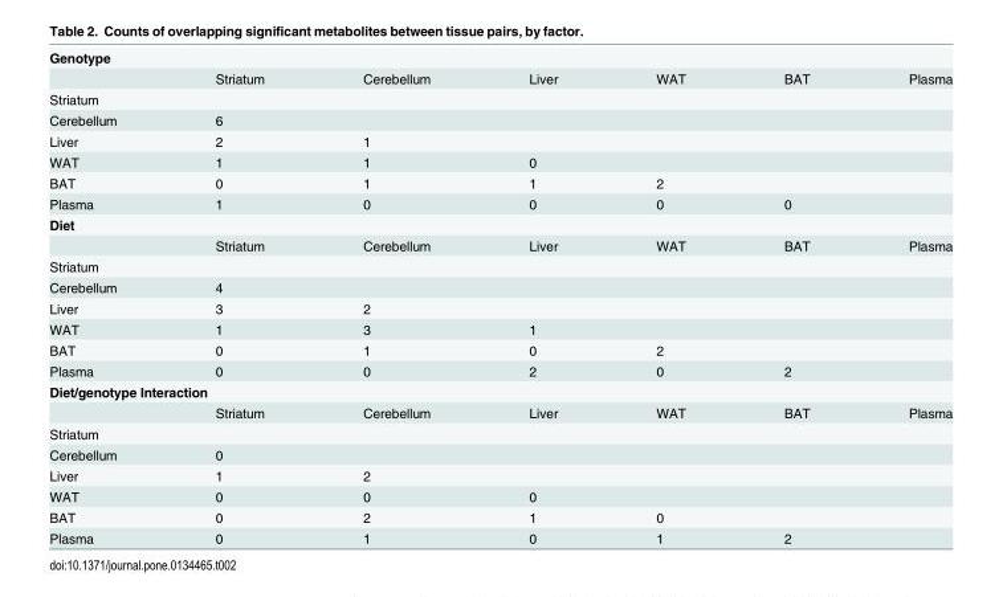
<table><tbody><tr><td colspan="7">Genotype</td></tr><tr><td></td><td>Striatum</td><td>Cerebellum</td><td>Liver</td><td>WAT</td><td>BAT</td><td>Plasma</td></tr><tr><td colspan="7">Striatum</td></tr><tr><td>Cerebellum</td><td>6</td><td></td><td></td><td></td><td></td><td></td></tr><tr><td>Liver</td><td>2</td><td>1</td><td></td><td></td><td></td><td></td></tr><tr><td>WAT</td><td>1</td><td>1</td><td>0</td><td></td><td></td><td></td></tr><tr><td>BAT</td><td>0</td><td>1</td><td>1</td><td>2</td><td></td><td></td></tr><tr><td>Plasma</td><td>1</td><td>0</td><td>0</td><td>0</td><td>0</td><td></td></tr><tr><td colspan="7">Diet</td></tr><tr><td></td><td>Striatum</td><td>Cerebellum</td><td>Liver</td><td>WAT</td><td>BAT</td><td>Plasma</td></tr><tr><td colspan="7">Striatum</td></tr><tr><td>Cerebellum</td><td>4</td><td></td><td></td><td></td><td></td><td></td></tr><tr><td>Liver</td><td>3</td><td>2</td><td></td><td></td><td></td><td></td></tr><tr><td>WAT</td><td>1</td><td>3</td><td>1</td><td></td><td></td><td></td></tr><tr><td>BAT</td><td>0</td><td>1</td><td>0</td><td>2</td><td></td><td></td></tr><tr><td>Plasma</td><td>0</td><td>0</td><td>2</td><td>0</td><td>2</td><td></td></tr><tr><td colspan="7">Diet/genotype Interaction</td></tr><tr><td></td><td>Striatum</td><td>Cerebellum</td><td>Liver</td><td>WAT</td><td>BAT</td><td>Plasma</td></tr><tr><td colspan="7">Striatum</td></tr><tr><td>Cerebellum</td><td>0</td><td></td><td></td><td></td><td></td><td></td></tr><tr><td>Liver</td><td>1</td><td>2</td><td></td><td></td><td></td><td></td></tr><tr><td>WAT</td><td>0</td><td>0</td><td>0</td><td></td><td></td><td></td></tr><tr><td>BAT</td><td>0</td><td>2</td><td>1</td><td>0</td><td></td><td></td></tr><tr><td>Plasma</td><td>0</td><td>1</td><td>0</td><td>1</td><td>2</td><td></td></tr></tbody></table>